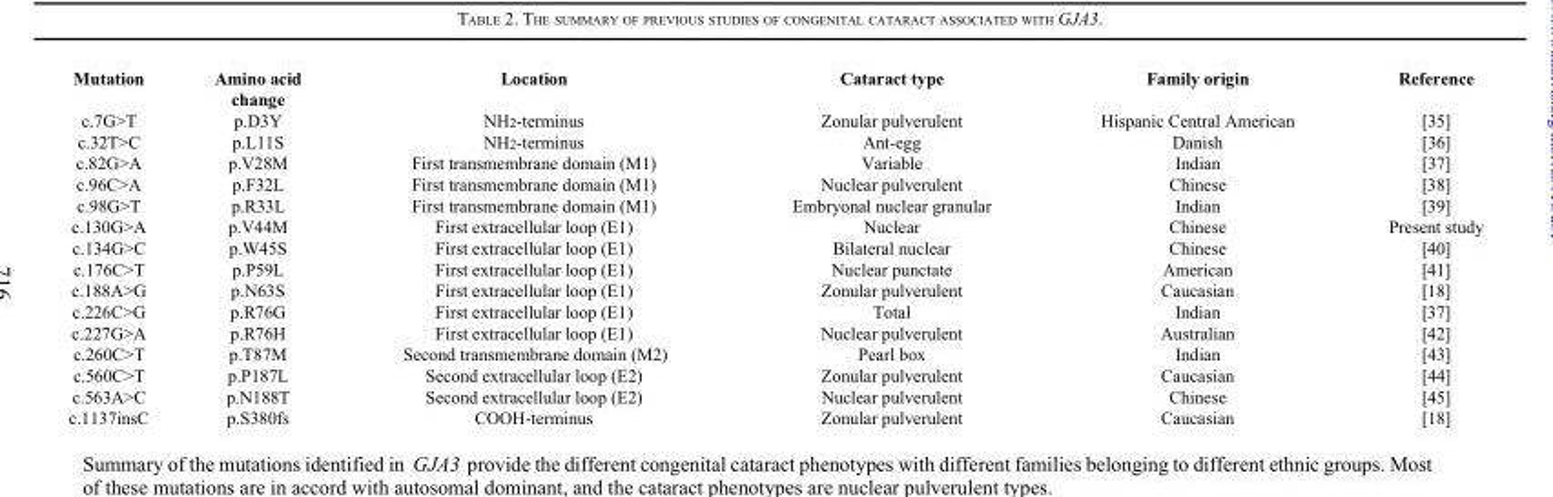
<table><thead><tr><td>Mutation</td><td>Amino acid change</td><td>Location</td><td>Cataract type</td><td>Family origin</td><td>Reference</td></tr></thead><tbody><tr><td>c.7G&gt;T</td><td>p.D3Y</td><td>NH<sub>2</sub>-terminus</td><td>Zonular pulverulent</td><td>Hispanic Central American</td><td>[35]</td></tr><tr><td>c.32T&gt;C</td><td>p.L11S</td><td>NH<sub>2</sub>-terminus</td><td>Ant-egg</td><td>Danish</td><td>[36]</td></tr><tr><td>c.82G&gt;A</td><td>p.V28M</td><td>First transmembrane domain (M1)</td><td>Variable</td><td>Indian</td><td>[37]</td></tr><tr><td>c.96C&gt;A</td><td>p.F32L</td><td>First transmembrane domain (M1)</td><td>Nuclear pulverulent</td><td>Chinese</td><td>[38]</td></tr><tr><td>c.98G&gt;T</td><td>p.R33L</td><td>First transmembrane domain (M1)</td><td>Embryonal nuclear granular</td><td>Indian</td><td>[39]</td></tr><tr><td>c.130G&gt;A</td><td>p.V44M</td><td>First extracellular loop (E1)</td><td>Nuclear</td><td>Chinese</td><td>Present study</td></tr><tr><td>c.134G&gt;C</td><td>p.W45S</td><td>First extracellular loop (E1)</td><td>Bilateral nuclear</td><td>Chinese</td><td>[40]</td></tr><tr><td>c.176C&gt;T</td><td>p.P59L</td><td>First extracellular loop (E1)</td><td>Nuclear punctate</td><td>American</td><td>[41]</td></tr><tr><td>c.188A&gt;G</td><td>p.N63S</td><td>First extracellular loop (E1)</td><td>Zonular pulverulent</td><td>Caucasian</td><td>[18]</td></tr><tr><td>c.226C&gt;G</td><td>p.R76G</td><td>First extracellular loop (E1)</td><td>Total</td><td>Indian</td><td>[37]</td></tr><tr><td>c.227G&gt;A</td><td>p.R76H</td><td>First extracellular loop (E1)</td><td>Nuclear pulverulent</td><td>Australian</td><td>[42]</td></tr><tr><td>c.260C&gt;T</td><td>p.T87M</td><td>Second transmembrane domain (M2)</td><td>Pearl box</td><td>Indian</td><td>[43]</td></tr><tr><td>c.560C&gt;T</td><td>p.P187L</td><td>Second extracellular loop (E2)</td><td>Zonular pulverulent</td><td>Caucasian</td><td>[44]</td></tr><tr><td>c.563A&gt;C</td><td>p.N188T</td><td>Second extracellular loop (E2)</td><td>Nuclear pulverulent</td><td>Chinese</td><td>[45]</td></tr><tr><td>c.1137insC</td><td>p.S380fs</td><td>COOH-terminus</td><td>Zonular pulverulent</td><td>Caucasian</td><td>[18]</td></tr></tbody></table>